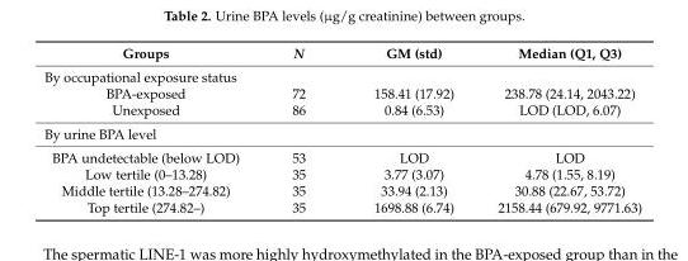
<table><thead><tr><td>Groups</td><td>N</td><td>GM (std)</td><td>Median (Q1, Q3)</td></tr></thead><tbody><tr><td colspan="4">By occupational exposure status</td></tr><tr><td>BPA-exposed</td><td>72</td><td>158.41 (17.92)</td><td>238.78 (24.14, 2043.22)</td></tr><tr><td>Unexposed</td><td>86</td><td>0.84 (6.53)</td><td>LOD (LOD, 6.07)</td></tr><tr><td colspan="4">By urine BPA level</td></tr><tr><td>BPA undetectable (below LOD)</td><td>53</td><td>LOD</td><td>LOD</td></tr><tr><td>Low tertile (0–13.28)</td><td>35</td><td>3.77 (3.07)</td><td>4.78 (1.55, 8.19)</td></tr><tr><td>Middle tertile (13.28–274.82)</td><td>35</td><td>33.94 (2.13)</td><td>30.88 (22.67, 53.72)</td></tr><tr><td>Top tertile (274.82–)</td><td>35</td><td>1698.88 (6.74)</td><td>2158.44 (679.92, 9771.63)</td></tr></tbody></table>